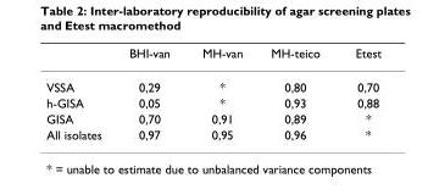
<table><thead><tr><td></td><td>BHI-van</td><td>MH-van</td><td>MH-teico</td><td>Etest</td></tr></thead><tbody><tr><td>VSSA</td><td>0,29</td><td>*</td><td>0,80</td><td>0,70</td></tr><tr><td>h-GISA</td><td>0,05</td><td>*</td><td>0,93</td><td>0,88</td></tr><tr><td>GISA</td><td>0,70</td><td>0,91</td><td>0,89</td><td>*</td></tr><tr><td>All isolates</td><td>0,97</td><td>0,95</td><td>0,96</td><td>*</td></tr></tbody></table>